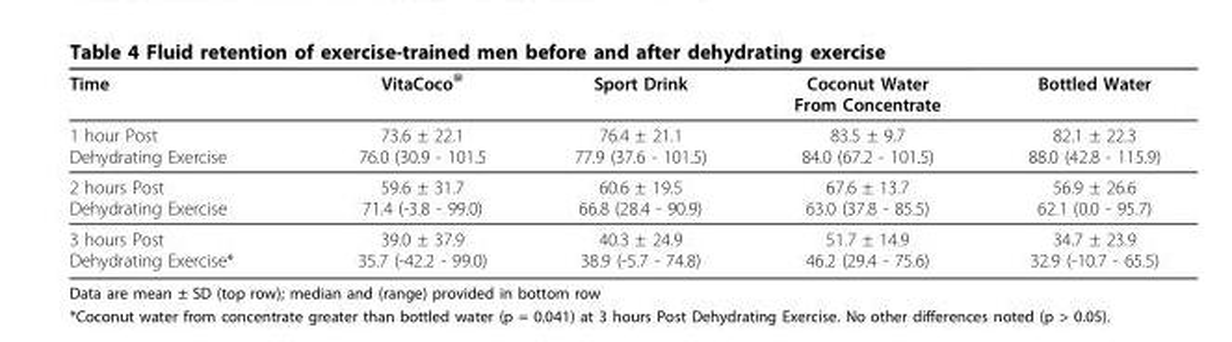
<table><thead><tr><td>Time</td><td>VitaCoco<sup>®</sup></td><td>Sport Drink</td><td>Coconut Water From Concentrate</td><td>Bottled Water</td></tr></thead><tbody><tr><td>1 hour Post Dehydrating Exercise</td><td>73.6 ± 22.1 76.0 (30.9 - 101.5</td><td>76.4 ± 21.1 77.9 (37.6 - 101.5)</td><td>83.5 ± 9.7 84.0 (67.2 - 101.5)</td><td>82.1 ± 22.3 88.0 (42.8 - 115.9)</td></tr><tr><td>2 hours Post Dehydrating Exercise</td><td>59.6 ± 31.7 71.4 (-3.8 - 99.0)</td><td>60.6 ± 19.5 66.8 (28.4 - 90.9)</td><td>67.6 ± 13.7 63.0 (37.8 - 85.5)</td><td>56.9 ± 26.6 62.1 (0.0 - 95.7)</td></tr><tr><td>3 hours Post Dehydrating Exercise*</td><td>39.0 ± 37.9 35.7 (-42.2 - 99.0)</td><td>40.3 ± 24.9 38.9 (-5.7 - 74.8)</td><td>51.7 ± 14.9 46.2 (29.4 - 75.6)</td><td>34.7 ± 23.9 32.9 (-10.7 - 65.5)</td></tr></tbody></table>